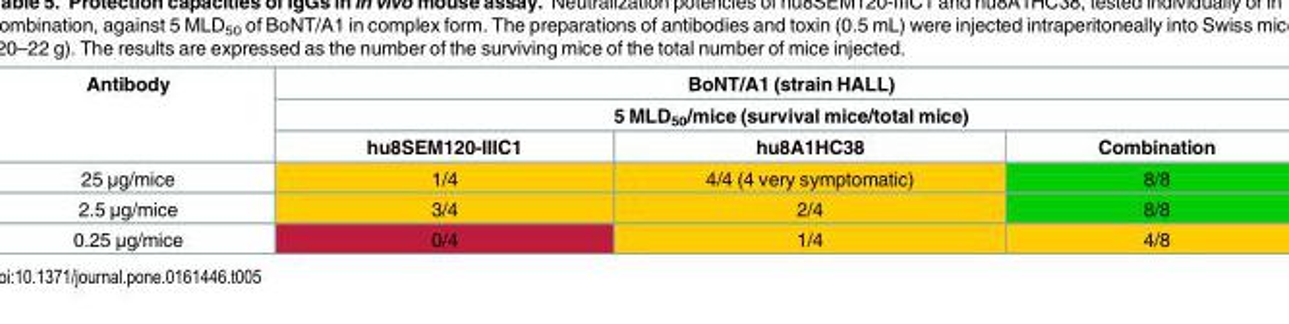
<table><thead><tr><td rowspan="3">Antibody</td><td rowspan="2" colspan="3">BoNT/A1 (strain HALL) 5 MLD<sub>50</sub>/mice (survival mice/total mice)</td></tr><tr></tr><tr><td>hu8SEM120-IIIC1</td><td>hu8A1HC38</td><td>Combination</td></tr></thead><tbody><tr><td>25 μg/mice</td><td>1/4</td><td>4/4 (4 very symptomatic)</td><td>8/8</td></tr><tr><td>2.5 μg/mice</td><td>3/4</td><td>2/4</td><td>8/8</td></tr><tr><td>0.25 μg/mice</td><td>0/4</td><td>1/4</td><td>4/8</td></tr></tbody></table>